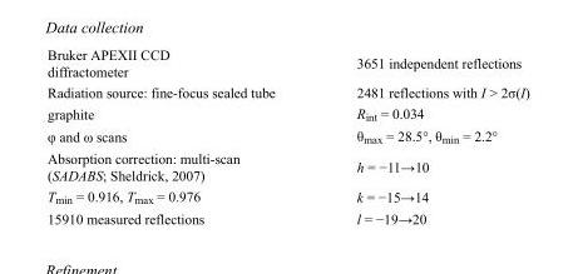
<table><tbody><tr><td>Bruker APEXII CCD diffractometer</td><td>3651 independent reflections</td></tr><tr><td>Radiation source: fine-focus sealed tube</td><td>2481 reflections with I &gt; 2σ(I)</td></tr><tr><td>graphite</td><td>R<sub>int</sub> = 0.034</td></tr><tr><td>φ and ω scans</td><td>θ<sub>max</sub> = 28.5°, θ<sub>min</sub> = 2.2°</td></tr><tr><td>Absorption correction: multi-scan (SADABS; Sheldrick, 2007)</td><td>h = −11→10</td></tr><tr><td>T<sub>min</sub> = 0.916, T<sub>max</sub> = 0.976</td><td>k = −15→14</td></tr><tr><td>15910 measured reflections</td><td>l = −19→20</td></tr></tbody></table>